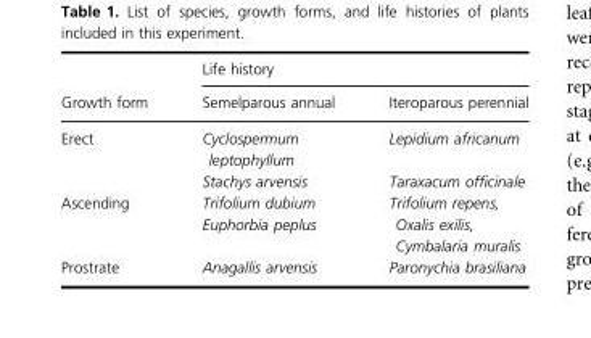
<table><thead><tr><td rowspan="2">Growth form</td><td colspan="2">Life history</td></tr><tr><td>Semelparous annual</td><td>Iteroparous perennial</td></tr></thead><tbody><tr><td rowspan="2">Erect</td><td>Cyclospermum leptophyllum</td><td>Lepidium africanum</td></tr><tr><td>Stachys arvensis</td><td>Taraxacum officinale</td></tr><tr><td rowspan="2">Ascending</td><td>Trifolium dubium</td><td rowspan="2">Trifolium repens, Oxalis exilis, Cymbalaria muralis</td></tr><tr><td>Euphorbia peplus</td></tr><tr><td>Prostrate</td><td>Anagallis arvensis</td><td>Paronychia brasiliana</td></tr></tbody></table>